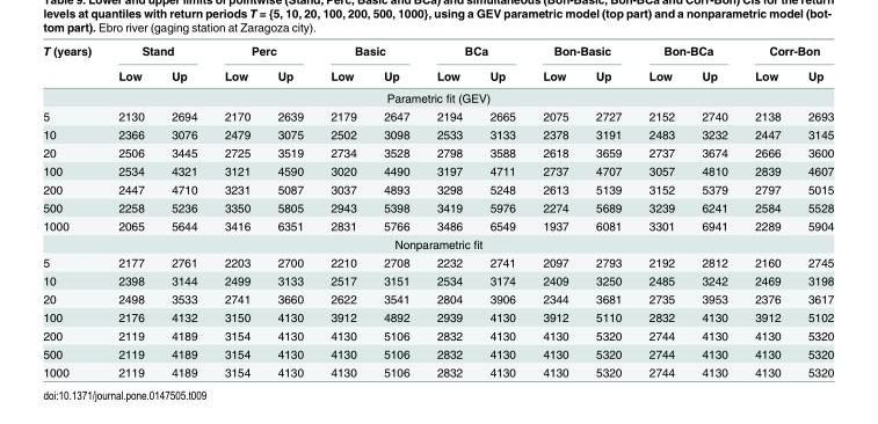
<table><thead><tr><td rowspan="2">T (years)</td><td colspan="2">Stand</td><td colspan="2">Perc</td><td colspan="2">Basic</td><td colspan="2">BCa</td><td colspan="2">Bon-Basic</td><td colspan="2">Bon-BCa</td><td colspan="2">Corr-Bon</td></tr><tr><td>Low</td><td>Up</td><td>Low</td><td>Up</td><td>Low</td><td>Up</td><td>Low</td><td>Up</td><td>Low</td><td>Up</td><td>Low</td><td>Up</td><td>Low</td><td>Up</td></tr></thead><tbody><tr><td colspan="15">Parametric fit (GEV)</td></tr><tr><td>5</td><td>2130</td><td>2694</td><td>2170</td><td>2639</td><td>2179</td><td>2647</td><td>2194</td><td>2665</td><td>2075</td><td>2727</td><td>2152</td><td>2740</td><td>2138</td><td>2693</td></tr><tr><td>10</td><td>2366</td><td>3076</td><td>2479</td><td>3075</td><td>2502</td><td>3098</td><td>2533</td><td>3133</td><td>2378</td><td>3191</td><td>2483</td><td>3232</td><td>2447</td><td>3145</td></tr><tr><td>20</td><td>2506</td><td>3445</td><td>2725</td><td>3519</td><td>2734</td><td>3528</td><td>2798</td><td>3588</td><td>2618</td><td>3659</td><td>2737</td><td>3674</td><td>2666</td><td>3600</td></tr><tr><td>100</td><td>2534</td><td>4321</td><td>3121</td><td>4590</td><td>3020</td><td>4490</td><td>3197</td><td>4711</td><td>2737</td><td>4707</td><td>3057</td><td>4810</td><td>2839</td><td>4607</td></tr><tr><td>200</td><td>2447</td><td>4710</td><td>3231</td><td>5087</td><td>3037</td><td>4893</td><td>3298</td><td>5248</td><td>2613</td><td>5139</td><td>3152</td><td>5379</td><td>2797</td><td>5015</td></tr><tr><td>500</td><td>2258</td><td>5236</td><td>3350</td><td>5805</td><td>2943</td><td>5398</td><td>3419</td><td>5976</td><td>2274</td><td>5689</td><td>3239</td><td>6241</td><td>2584</td><td>5528</td></tr><tr><td>1000</td><td>2065</td><td>5644</td><td>3416</td><td>6351</td><td>2831</td><td>5766</td><td>3486</td><td>6549</td><td>1937</td><td>6081</td><td>3301</td><td>6941</td><td>2289</td><td>5904</td></tr><tr><td colspan="15">Nonparametric fit</td></tr><tr><td>5</td><td>2177</td><td>2761</td><td>2203</td><td>2700</td><td>2210</td><td>2708</td><td>2232</td><td>2741</td><td>2097</td><td>2793</td><td>2192</td><td>2812</td><td>2160</td><td>2745</td></tr><tr><td>10</td><td>2398</td><td>3144</td><td>2499</td><td>3133</td><td>2517</td><td>3151</td><td>2534</td><td>3174</td><td>2409</td><td>3250</td><td>2485</td><td>3242</td><td>2469</td><td>3198</td></tr><tr><td>20</td><td>2498</td><td>3533</td><td>2741</td><td>3660</td><td>2622</td><td>3541</td><td>2804</td><td>3906</td><td>2344</td><td>3681</td><td>2735</td><td>3953</td><td>2376</td><td>3617</td></tr><tr><td>100</td><td>2176</td><td>4132</td><td>3150</td><td>4130</td><td>3912</td><td>4892</td><td>2939</td><td>4130</td><td>3912</td><td>5110</td><td>2832</td><td>4130</td><td>3912</td><td>5102</td></tr><tr><td>200</td><td>2119</td><td>4189</td><td>3154</td><td>4130</td><td>4130</td><td>5106</td><td>2832</td><td>4130</td><td>4130</td><td>5320</td><td>2744</td><td>4130</td><td>4130</td><td>5320</td></tr><tr><td>500</td><td>2119</td><td>4189</td><td>3154</td><td>4130</td><td>4130</td><td>5106</td><td>2832</td><td>4130</td><td>4130</td><td>5320</td><td>2744</td><td>4130</td><td>4130</td><td>5320</td></tr><tr><td>1000</td><td>2119</td><td>4189</td><td>3154</td><td>4130</td><td>4130</td><td>5106</td><td>2832</td><td>4130</td><td>4130</td><td>5320</td><td>2744</td><td>4130</td><td>4130</td><td>5320</td></tr></tbody></table>